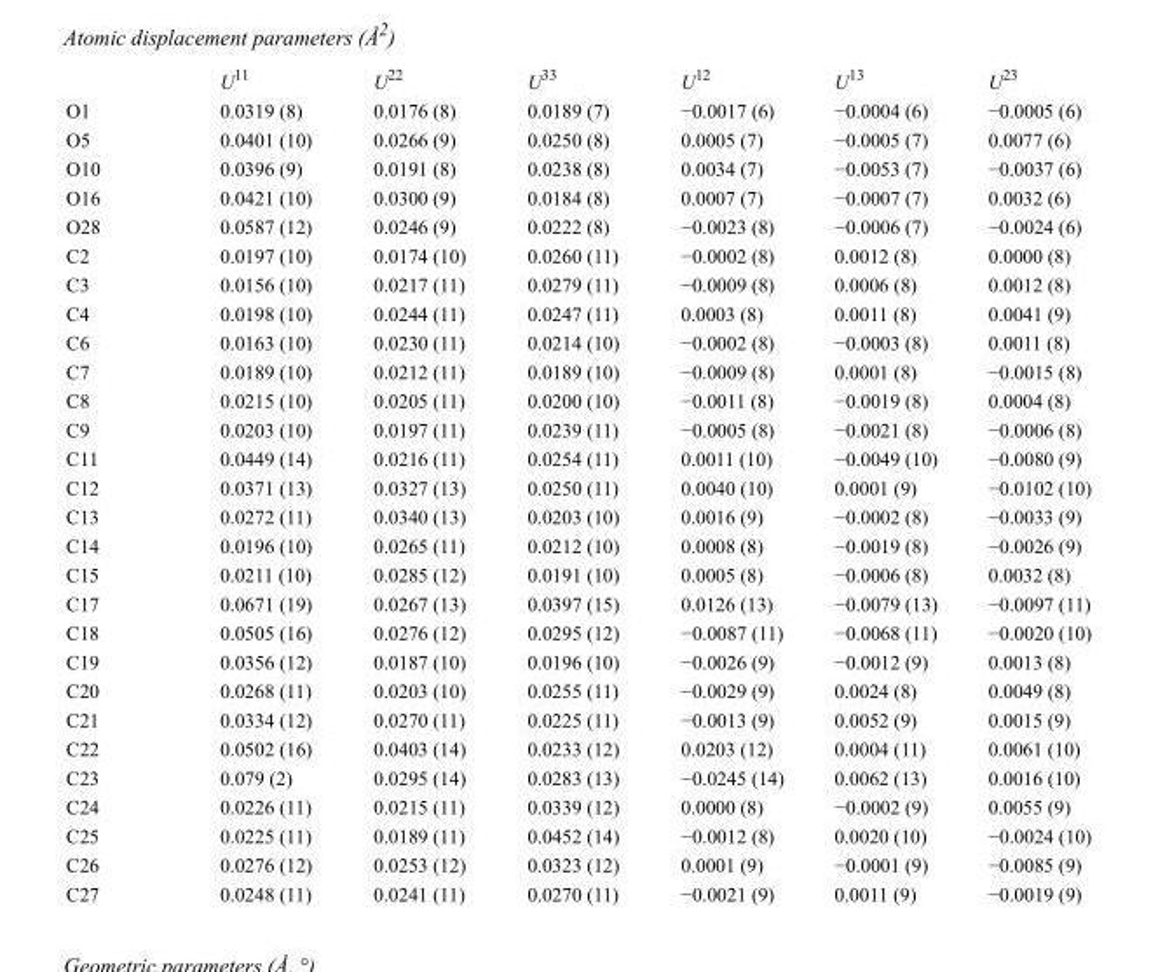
<table><thead><tr><td></td><td>U<sup>11</sup></td><td>U<sup>22</sup></td><td>U<sup>33</sup></td><td>U<sup>12</sup></td><td>U<sup>13</sup></td><td>U<sup>23</sup></td></tr></thead><tbody><tr><td>O1</td><td>0.0319 (8)</td><td>0.0176 (8)</td><td>0.0189 (7)</td><td>−0.0017 (6)</td><td>−0.0004 (6)</td><td>−0.0005 (6)</td></tr><tr><td>O5</td><td>0.0401 (10)</td><td>0.0266 (9)</td><td>0.0250 (8)</td><td>0.0005 (7)</td><td>−0.0005 (7)</td><td>0.0077 (6)</td></tr><tr><td>O10</td><td>0.0396 (9)</td><td>0.0191 (8)</td><td>0.0238 (8)</td><td>0.0034 (7)</td><td>−0.0053 (7)</td><td>−0.0037 (6)</td></tr><tr><td>O16</td><td>0.0421 (10)</td><td>0.0300 (9)</td><td>0.0184 (8)</td><td>0.0007 (7)</td><td>−0.0007 (7)</td><td>0.0032 (6)</td></tr><tr><td>O28</td><td>0.0587 (12)</td><td>0.0246 (9)</td><td>0.0222 (8)</td><td>−0.0023 (8)</td><td>−0.0006 (7)</td><td>−0.0024 (6)</td></tr><tr><td>C2</td><td>0.0197 (10)</td><td>0.0174 (10)</td><td>0.0260 (11)</td><td>−0.0002 (8)</td><td>0.0012 (8)</td><td>0.0000 (8)</td></tr><tr><td>C3</td><td>0.0156 (10)</td><td>0.0217 (11)</td><td>0.0279 (11)</td><td>−0.0009 (8)</td><td>0.0006 (8)</td><td>0.0012 (8)</td></tr><tr><td>C4</td><td>0.0198 (10)</td><td>0.0244 (11)</td><td>0.0247 (11)</td><td>0.0003 (8)</td><td>0.0011 (8)</td><td>0.0041 (9)</td></tr><tr><td>C6</td><td>0.0163 (10)</td><td>0.0230 (11)</td><td>0.0214 (10)</td><td>−0.0002 (8)</td><td>−0.0003 (8)</td><td>0.0011 (8)</td></tr><tr><td>C7</td><td>0.0189 (10)</td><td>0.0212 (11)</td><td>0.0189 (10)</td><td>−0.0009 (8)</td><td>0.0001 (8)</td><td>−0.0015 (8)</td></tr><tr><td>C8</td><td>0.0215 (10)</td><td>0.0205 (11)</td><td>0.0200 (10)</td><td>−0.0011 (8)</td><td>−0.0019 (8)</td><td>0.0004 (8)</td></tr><tr><td>C9</td><td>0.0203 (10)</td><td>0.0197 (11)</td><td>0.0239 (11)</td><td>−0.0005 (8)</td><td>−0.0021 (8)</td><td>−0.0006 (8)</td></tr><tr><td>C11</td><td>0.0449 (14)</td><td>0.0216 (11)</td><td>0.0254 (11)</td><td>0.0011 (10)</td><td>−0.0049 (10)</td><td>−0.0080 (9)</td></tr><tr><td>C12</td><td>0.0371 (13)</td><td>0.0327 (13)</td><td>0.0250 (11)</td><td>0.0040 (10)</td><td>0.0001 (9)</td><td>−0.0102 (10)</td></tr><tr><td>C13</td><td>0.0272 (11)</td><td>0.0340 (13)</td><td>0.0203 (10)</td><td>0.0016 (9)</td><td>−0.0002 (8)</td><td>−0.0033 (9)</td></tr><tr><td>C14</td><td>0.0196 (10)</td><td>0.0265 (11)</td><td>0.0212 (10)</td><td>0.0008 (8)</td><td>−0.0019 (8)</td><td>−0.0026 (9)</td></tr><tr><td>C15</td><td>0.0211 (10)</td><td>0.0285 (12)</td><td>0.0191 (10)</td><td>0.0005 (8)</td><td>−0.0006 (8)</td><td>0.0032 (8)</td></tr><tr><td>C17</td><td>0.0671 (19)</td><td>0.0267 (13)</td><td>0.0397 (15)</td><td>0.0126 (13)</td><td>−0.0079 (13)</td><td>−0.0097 (11)</td></tr><tr><td>C18</td><td>0.0505 (16)</td><td>0.0276 (12)</td><td>0.0295 (12)</td><td>−0.0087 (11)</td><td>−0.0068 (11)</td><td>−0.0020 (10)</td></tr><tr><td>C19</td><td>0.0356 (12)</td><td>0.0187 (10)</td><td>0.0196 (10)</td><td>−0.0026 (9)</td><td>−0.0012 (9)</td><td>0.0013 (8)</td></tr><tr><td>C20</td><td>0.0268 (11)</td><td>0.0203 (10)</td><td>0.0255 (11)</td><td>−0.0029 (9)</td><td>0.0024 (8)</td><td>0.0049 (8)</td></tr><tr><td>C21</td><td>0.0334 (12)</td><td>0.0270 (11)</td><td>0.0225 (11)</td><td>−0.0013 (9)</td><td>0.0052 (9)</td><td>0.0015 (9)</td></tr><tr><td>C22</td><td>0.0502 (16)</td><td>0.0403 (14)</td><td>0.0233 (12)</td><td>0.0203 (12)</td><td>0.0004 (11)</td><td>0.0061 (10)</td></tr><tr><td>C23</td><td>0.079 (2)</td><td>0.0295 (14)</td><td>0.0283 (13)</td><td>−0.0245 (14)</td><td>0.0062 (13)</td><td>0.0016 (10)</td></tr><tr><td>C24</td><td>0.0226 (11)</td><td>0.0215 (11)</td><td>0.0339 (12)</td><td>0.0000 (8)</td><td>−0.0002 (9)</td><td>0.0055 (9)</td></tr><tr><td>C25</td><td>0.0225 (11)</td><td>0.0189 (11)</td><td>0.0452 (14)</td><td>−0.0012 (8)</td><td>0.0020 (10)</td><td>−0.0024 (10)</td></tr><tr><td>C26</td><td>0.0276 (12)</td><td>0.0253 (12)</td><td>0.0323 (12)</td><td>0.0001 (9)</td><td>−0.0001 (9)</td><td>−0.0085 (9)</td></tr><tr><td>C27</td><td>0.0248 (11)</td><td>0.0241 (11)</td><td>0.0270 (11)</td><td>−0.0021 (9)</td><td>0.0011 (9)</td><td>−0.0019 (9)</td></tr></tbody></table>